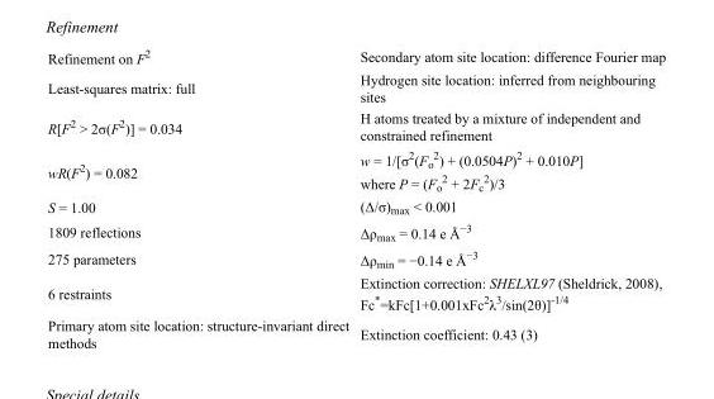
<table><tbody><tr><td>Refinement on F<sup>2</sup></td><td>Secondary atom site location: difference Fourier map</td></tr><tr><td>Least-squares matrix: full</td><td>Hydrogen site location: inferred from neighbouring sites</td></tr><tr><td>R[F<sup>2</sup> &gt; 2σ(F<sup>2</sup>)] = 0.034</td><td>H atoms treated by a mixture of independent and constrained refinement</td></tr><tr><td>wR(F<sup>2</sup>) = 0.082</td><td>w = 1/[σ<sup>2</sup>(F<sub>o</sub> <sup>2</sup>) + (0.0504P)<sup>2</sup> + 0.010P] where P = (F<sub>o</sub> <sup>2</sup> + 2F<sub>c</sub> <sup>2</sup>)/3</td></tr><tr><td>S = 1.00</td><td>(Δ/σ)<sub>max</sub> &lt; 0.001</td></tr><tr><td>1809 reflections</td><td>Δρ<sub>max</sub> = 0.14 e Å<sup>−3</sup></td></tr><tr><td>275 parameters</td><td>Δρ<sub>min</sub> = −0.14 e Å<sup>−3</sup></td></tr><tr><td>6 restraints</td><td>Extinction correction: SHELXL97 (Sheldrick, 2008), Fc*=kFc[1+0.001xFc<sup>2</sup>λ<sup>3</sup>/sin(2θ)]<sup>-1/4</sup></td></tr><tr><td>Primary atom site location: structure-invariant direct methods</td><td>Extinction coefficient: 0.43 (3)</td></tr></tbody></table>